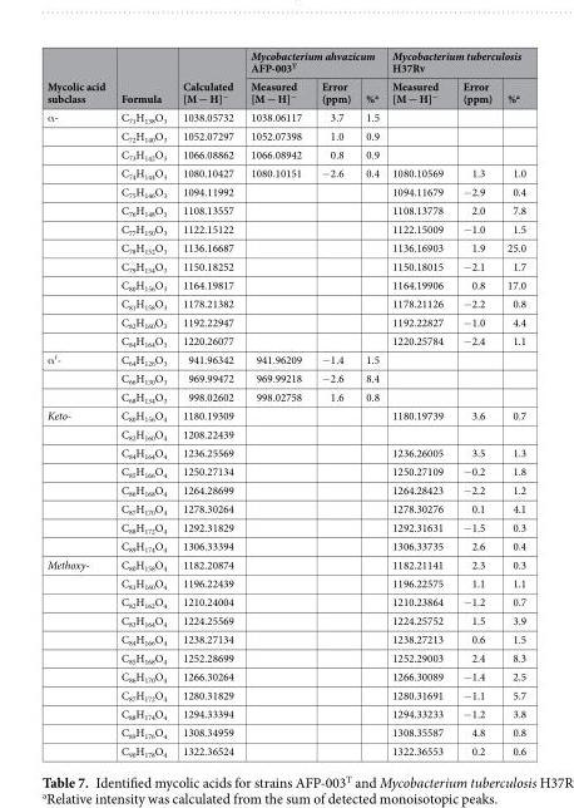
<table><thead><tr><td rowspan="2">Mycolic acid subclass</td><td rowspan="2">Formula</td><td rowspan="2">Calculated [M − H]<sup>−</sup></td><td colspan="3">Mycobacterium ahvazicum AFP-003<sup>T</sup></td><td colspan="3">Mycobacterium tuberculosis H37Rv</td></tr><tr><td>Measured [M − H]<sup>−</sup></td><td>Error (ppm)</td><td>%<sup>a</sup></td><td>Measured [M − H]<sup>−</sup></td><td>Error (ppm)</td><td>%<sup>a</sup></td></tr></thead><tbody><tr><td rowspan="13">α-</td><td>C<sub>71</sub>H<sub>138</sub>O<sub>3</sub></td><td>1038.05732</td><td>1038.06117</td><td>3.7</td><td>1.5</td><td></td><td></td><td></td></tr><tr><td>C<sub>72</sub>H<sub>140</sub>O<sub>3</sub></td><td>1052.07297</td><td>1052.07398</td><td>1.0</td><td>0.9</td><td></td><td></td><td></td></tr><tr><td>C<sub>73</sub>H<sub>142</sub>O<sub>3</sub></td><td>1066.08862</td><td>1066.08942</td><td>0.8</td><td>0.9</td><td></td><td></td><td></td></tr><tr><td>C<sub>74</sub>H<sub>144</sub>O<sub>3</sub></td><td>1080.10427</td><td>1080.10151</td><td>−2.6</td><td>0.4</td><td>1080.10569</td><td>1.3</td><td>1.0</td></tr><tr><td>C<sub>75</sub>H<sub>146</sub>O<sub>3</sub></td><td>1094.11992</td><td></td><td></td><td></td><td>1094.11679</td><td>−2.9</td><td>0.4</td></tr><tr><td>C<sub>76</sub>H<sub>148</sub>O<sub>3</sub></td><td>1108.13557</td><td></td><td></td><td></td><td>1108.13778</td><td>2.0</td><td>7.8</td></tr><tr><td>C<sub>77</sub>H<sub>150</sub>O<sub>3</sub></td><td>1122.15122</td><td></td><td></td><td></td><td>1122.15009</td><td>−1.0</td><td>1.5</td></tr><tr><td>C<sub>78</sub>H<sub>152</sub>O<sub>3</sub></td><td>1136.16687</td><td></td><td></td><td></td><td>1136.16903</td><td>1.9</td><td>25.0</td></tr><tr><td>C<sub>79</sub>H<sub>154</sub>O<sub>3</sub></td><td>1150.18252</td><td></td><td></td><td></td><td>1150.18015</td><td>−2.1</td><td>1.7</td></tr><tr><td>C<sub>80</sub>H<sub>156</sub>O<sub>3</sub></td><td>1164.19817</td><td></td><td></td><td></td><td>1164.19906</td><td>0.8</td><td>17.0</td></tr><tr><td>C<sub>81</sub>H<sub>158</sub>O<sub>3</sub></td><td>1178.21382</td><td></td><td></td><td></td><td>1178.21126</td><td>−2.2</td><td>0.8</td></tr><tr><td>C<sub>82</sub>H<sub>160</sub>O<sub>3</sub></td><td>1192.22947</td><td></td><td></td><td></td><td>1192.22827</td><td>−1.0</td><td>4.4</td></tr><tr><td>C<sub>84</sub>H<sub>164</sub>O<sub>3</sub></td><td>1220.26077</td><td></td><td></td><td></td><td>1220.25784</td><td>−2.4</td><td>1.1</td></tr><tr><td rowspan="3">α′-</td><td>C<sub>64</sub>H<sub>126</sub>O<sub>3</sub></td><td>941.96342</td><td>941.96209</td><td>−1.4</td><td>1.5</td><td></td><td></td><td></td></tr><tr><td>C<sub>66</sub>H<sub>130</sub>O<sub>3</sub></td><td>969.99472</td><td>969.99218</td><td>−2.6</td><td>8.4</td><td></td><td></td><td></td></tr><tr><td>C<sub>68</sub>H<sub>134</sub>O<sub>3</sub></td><td>998.02602</td><td>998.02758</td><td>1.6</td><td>0.8</td><td></td><td></td><td></td></tr><tr><td rowspan="8">Keto-</td><td>C<sub>80</sub>H<sub>156</sub>O<sub>4</sub></td><td>1180.19309</td><td></td><td></td><td></td><td>1180.19739</td><td>3.6</td><td>0.7</td></tr><tr><td>C<sub>82</sub>H<sub>160</sub>O<sub>4</sub></td><td>1208.22439</td><td></td><td></td><td></td><td></td><td></td><td></td></tr><tr><td>C<sub>84</sub>H<sub>164</sub>O<sub>4</sub></td><td>1236.25569</td><td></td><td></td><td></td><td>1236.26005</td><td>3.5</td><td>1.3</td></tr><tr><td>C<sub>85</sub>H<sub>166</sub>O<sub>4</sub></td><td>1250.27134</td><td></td><td></td><td></td><td>1250.27109</td><td>−0.2</td><td>1.8</td></tr><tr><td>C<sub>86</sub>H<sub>168</sub>O<sub>4</sub></td><td>1264.28699</td><td></td><td></td><td></td><td>1264.28423</td><td>−2.2</td><td>1.2</td></tr><tr><td>C<sub>87</sub>H<sub>170</sub>O<sub>4</sub></td><td>1278.30264</td><td></td><td></td><td></td><td>1278.30276</td><td>0.1</td><td>4.1</td></tr><tr><td>C<sub>88</sub>H<sub>172</sub>O<sub>4</sub></td><td>1292.31829</td><td></td><td></td><td></td><td>1292.31631</td><td>−1.5</td><td>0.3</td></tr><tr><td>C<sub>89</sub>H<sub>174</sub>O<sub>4</sub></td><td>1306.33394</td><td></td><td></td><td></td><td>1306.33735</td><td>2.6</td><td>0.4</td></tr><tr><td rowspan="11">Methoxy-</td><td>C<sub>80</sub>H<sub>158</sub>O<sub>4</sub></td><td>1182.20874</td><td></td><td></td><td></td><td>1182.21141</td><td>2.3</td><td>0.3</td></tr><tr><td>C<sub>81</sub>H<sub>160</sub>O<sub>4</sub></td><td>1196.22439</td><td></td><td></td><td></td><td>1196.22575</td><td>1.1</td><td>1.1</td></tr><tr><td>C<sub>82</sub>H<sub>162</sub>O<sub>4</sub></td><td>1210.24004</td><td></td><td></td><td></td><td>1210.23864</td><td>−1.2</td><td>0.7</td></tr><tr><td>C<sub>83</sub>H<sub>164</sub>O<sub>4</sub></td><td>1224.25569</td><td></td><td></td><td></td><td>1224.25752</td><td>1.5</td><td>3.9</td></tr><tr><td>C<sub>84</sub>H<sub>166</sub>O<sub>4</sub></td><td>1238.27134</td><td></td><td></td><td></td><td>1238.27213</td><td>0.6</td><td>1.5</td></tr><tr><td>C<sub>85</sub>H<sub>168</sub>O<sub>4</sub></td><td>1252.28699</td><td></td><td></td><td></td><td>1252.29003</td><td>2.4</td><td>8.3</td></tr><tr><td>C<sub>86</sub>H<sub>170</sub>O<sub>4</sub></td><td>1266.30264</td><td></td><td></td><td></td><td>1266.30089</td><td>−1.4</td><td>2.5</td></tr><tr><td>C<sub>87</sub>H<sub>172</sub>O<sub>4</sub></td><td>1280.31829</td><td></td><td></td><td></td><td>1280.31691</td><td>−1.1</td><td>5.7</td></tr><tr><td>C<sub>88</sub>H<sub>174</sub>O<sub>4</sub></td><td>1294.33394</td><td></td><td></td><td></td><td>1294.33233</td><td>−1.2</td><td>3.8</td></tr><tr><td>C<sub>89</sub>H<sub>176</sub>O<sub>4</sub></td><td>1308.34959</td><td></td><td></td><td></td><td>1308.35587</td><td>4.8</td><td>0.8</td></tr><tr><td>C<sub>90</sub>H<sub>178</sub>O<sub>4</sub></td><td>1322.36524</td><td></td><td></td><td></td><td>1322.36553</td><td>0.2</td><td>0.6</td></tr></tbody></table>